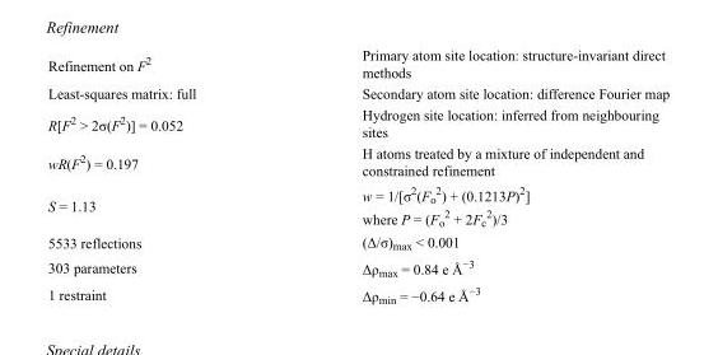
<table><tbody><tr><td>Refinement on F<sup>2</sup></td><td>Primary atom site location: structure-invariant direct methods</td></tr><tr><td>Least-squares matrix: full</td><td>Secondary atom site location: difference Fourier map</td></tr><tr><td>R[F<sup>2</sup> &gt; 2σ(F<sup>2</sup>)] = 0.052</td><td>Hydrogen site location: inferred from neighbouring sites</td></tr><tr><td>wR(F<sup>2</sup>) = 0.197</td><td>H atoms treated by a mixture of independent and constrained refinement</td></tr><tr><td>S = 1.13</td><td>w = 1/[σ<sup>2</sup>(F<sub>o</sub> <sup>2</sup>) + (0.1213P)<sup>2</sup>] where P = (F<sub>o</sub> <sup>2</sup> + 2F<sub>c</sub> <sup>2</sup>)/3</td></tr><tr><td>5533 reflections</td><td>(Δ/σ)<sub>max</sub> &lt; 0.001</td></tr><tr><td>303 parameters</td><td>Δρ<sub>max</sub> = 0.84 e Å<sup>−3</sup></td></tr><tr><td>1 restraint</td><td>Δρ<sub>min</sub> = −0.64 e Å<sup>−3</sup></td></tr></tbody></table>